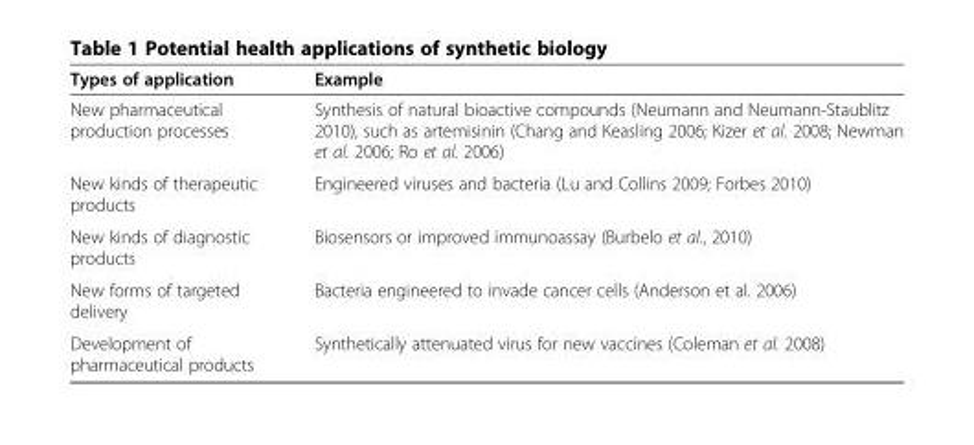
<table><thead><tr><td>Types of application</td><td>Example</td></tr></thead><tbody><tr><td>New pharmaceutical production processes</td><td>Synthesis of natural bioactive compounds (Neumann and Neumann-Staublitz 2010), such as artemisinin (Chang and Keasling 2006; Kizer et al. 2008; Newman et al. 2006; Ro et al. 2006)</td></tr><tr><td>New kinds of therapeutic products</td><td>Engineered viruses and bacteria (Lu and Collins 2009; Forbes 2010)</td></tr><tr><td>New kinds of diagnostic products</td><td>Biosensors or improved immunoassay (Burbelo et al., 2010)</td></tr><tr><td>New forms of targeted delivery</td><td>Bacteria engineered to invade cancer cells (Anderson et al. 2006)</td></tr><tr><td>Development of pharmaceutical products</td><td>Synthetically attenuated virus for new vaccines (Coleman et al. 2008)</td></tr></tbody></table>